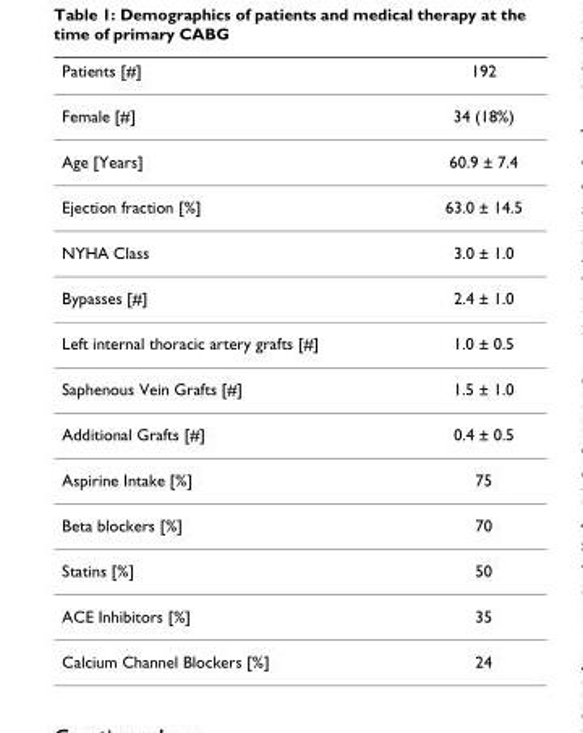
<table><thead><tr><td>Patients [#]</td><td>192</td></tr></thead><tbody><tr><td>Female [#]</td><td>34 (18%)</td></tr><tr><td>Age [Years]</td><td>60.9 ± 7.4</td></tr><tr><td>Ejection fraction [%]</td><td>63.0 ± 14.5</td></tr><tr><td>NYHA Class</td><td>3.0 ± 1.0</td></tr><tr><td>Bypasses [#]</td><td>2.4 ± 1.0</td></tr><tr><td>Left internal thoracic artery grafts [#]</td><td>1.0 ± 0.5</td></tr><tr><td>Saphenous Vein Grafts [#]</td><td>1.5 ± 1.0</td></tr><tr><td>Additional Grafts [#]</td><td>0.4 ± 0.5</td></tr><tr><td>Aspirine Intake [%]</td><td>75</td></tr><tr><td>Beta blockers [%]</td><td>70</td></tr><tr><td>Statins [%]</td><td>50</td></tr><tr><td>ACE Inhibitors [%]</td><td>35</td></tr><tr><td>Calcium Channel Blockers [%]</td><td>24</td></tr></tbody></table>